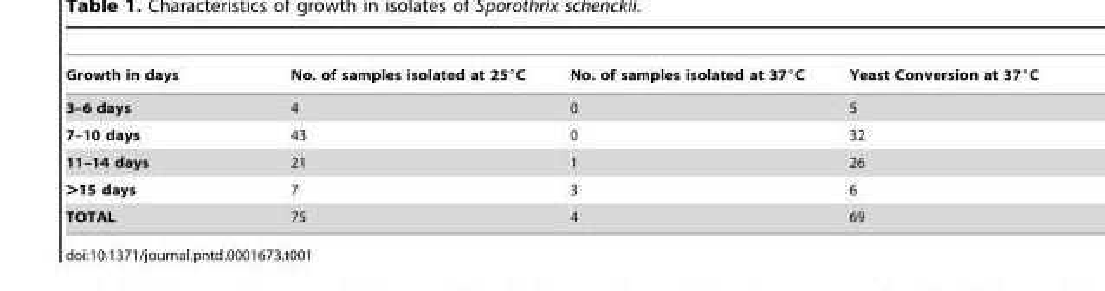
<table><thead><tr><td>Growth in days</td><td>No. of samples isolated at 25°C</td><td>No. of samples isolated at 37°C</td><td>Yeast Conversion at 37°C</td></tr></thead><tbody><tr><td>3–6 days</td><td>4</td><td>0</td><td>5</td></tr><tr><td>7–10 days</td><td>43</td><td>0</td><td>32</td></tr><tr><td>11–14 days</td><td>21</td><td>1</td><td>26</td></tr><tr><td>&gt;15 days</td><td>7</td><td>3</td><td>6</td></tr><tr><td>TOTAL</td><td>75</td><td>4</td><td>69</td></tr></tbody></table>